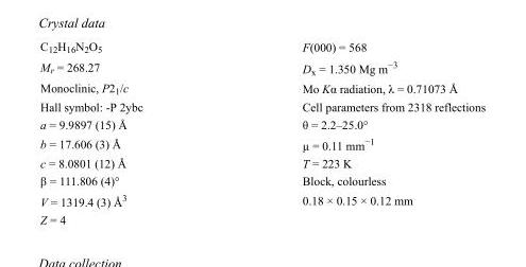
<table><tbody><tr><td>C<sub>12</sub>H<sub>16</sub>N<sub>2</sub>O<sub>5</sub></td><td>F(000) = 568</td></tr><tr><td>M<sub>r</sub> = 268.27</td><td>D<sub>x</sub> = 1.350 Mg m<sup>−3</sup></td></tr><tr><td>Monoclinic, P2<sub>1</sub>/c</td><td>Mo Kα radiation, λ = 0.71073 Å</td></tr><tr><td>Hall symbol: -P 2ybc</td><td>Cell parameters from 2318 reflections</td></tr><tr><td>a = 9.9897 (15) Å</td><td>θ = 2.2–25.0°</td></tr><tr><td>b = 17.606 (3) Å</td><td>µ = 0.11 mm<sup>−1</sup></td></tr><tr><td>c = 8.0801 (12) Å</td><td>T = 223 K</td></tr><tr><td>β = 111.806 (4)°</td><td>Block, colourless</td></tr><tr><td>V = 1319.4 (3) Å<sup>3</sup></td><td>0.18 × 0.15 × 0.12 mm</td></tr><tr><td>Z = 4</td><td></td></tr></tbody></table>